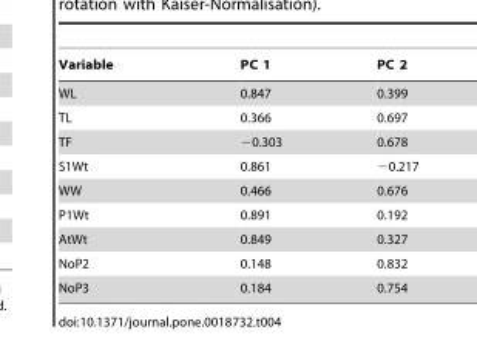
<table><thead><tr><td>Variable</td><td>PC 1</td><td>PC 2</td></tr></thead><tbody><tr><td>WL</td><td>0.847</td><td>0.399</td></tr><tr><td>TL</td><td>0.366</td><td>0.697</td></tr><tr><td>TF</td><td>−0.303</td><td>0.678</td></tr><tr><td>S1Wt</td><td>0.861</td><td>−0.217</td></tr><tr><td>WW</td><td>0.466</td><td>0.676</td></tr><tr><td>P1Wt</td><td>0.891</td><td>0.192</td></tr><tr><td>AtWt</td><td>0.849</td><td>0.327</td></tr><tr><td>NoP2</td><td>0.148</td><td>0.832</td></tr><tr><td>NoP3</td><td>0.184</td><td>0.754</td></tr></tbody></table>